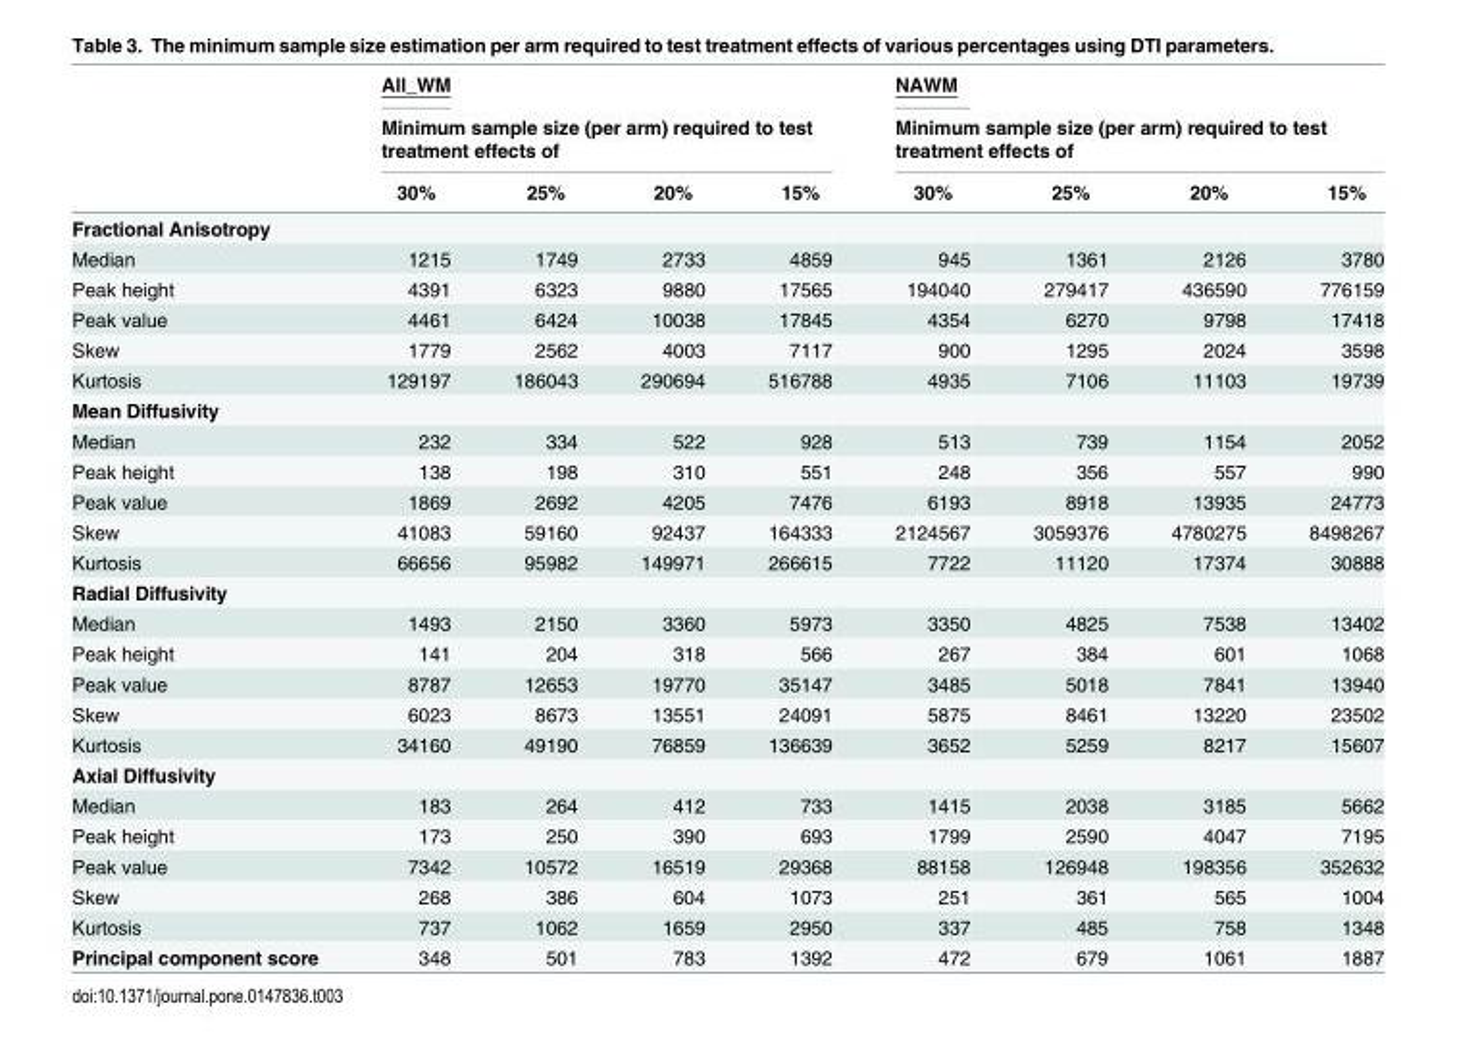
<table><thead><tr><td rowspan="3"></td><td>All_WM</td><td></td><td></td><td></td><td>NAWM</td><td></td><td></td><td></td></tr><tr><td colspan="4">Minimum sample size (per arm) required to test treatment effects of</td><td colspan="4">Minimum sample size (per arm) required to test treatment effects of</td></tr><tr><td>30%</td><td>25%</td><td>20%</td><td>15%</td><td>30%</td><td>25%</td><td>20%</td><td>15%</td></tr></thead><tbody><tr><td colspan="9">Fractional Anisotropy</td></tr><tr><td>Median</td><td>1215</td><td>1749</td><td>2733</td><td>4859</td><td>945</td><td>1361</td><td>2126</td><td>3780</td></tr><tr><td>Peak height</td><td>4391</td><td>6323</td><td>9880</td><td>17565</td><td>194040</td><td>279417</td><td>436590</td><td>776159</td></tr><tr><td>Peak value</td><td>4461</td><td>6424</td><td>10038</td><td>17845</td><td>4354</td><td>6270</td><td>9798</td><td>17418</td></tr><tr><td>Skew</td><td>1779</td><td>2562</td><td>4003</td><td>7117</td><td>900</td><td>1295</td><td>2024</td><td>3598</td></tr><tr><td>Kurtosis</td><td>129197</td><td>186043</td><td>290694</td><td>516788</td><td>4935</td><td>7106</td><td>11103</td><td>19739</td></tr><tr><td colspan="9">Mean Diffusivity</td></tr><tr><td>Median</td><td>232</td><td>334</td><td>522</td><td>928</td><td>513</td><td>739</td><td>1154</td><td>2052</td></tr><tr><td>Peak height</td><td>138</td><td>198</td><td>310</td><td>551</td><td>248</td><td>356</td><td>557</td><td>990</td></tr><tr><td>Peak value</td><td>1869</td><td>2692</td><td>4205</td><td>7476</td><td>6193</td><td>8918</td><td>13935</td><td>24773</td></tr><tr><td>Skew</td><td>41083</td><td>59160</td><td>92437</td><td>164333</td><td>2124567</td><td>3059376</td><td>4780275</td><td>8498267</td></tr><tr><td>Kurtosis</td><td>66656</td><td>95982</td><td>149971</td><td>266615</td><td>7722</td><td>11120</td><td>17374</td><td>30888</td></tr><tr><td colspan="9">Radial Diffusivity</td></tr><tr><td>Median</td><td>1493</td><td>2150</td><td>3360</td><td>5973</td><td>3350</td><td>4825</td><td>7538</td><td>13402</td></tr><tr><td>Peak height</td><td>141</td><td>204</td><td>318</td><td>566</td><td>267</td><td>384</td><td>601</td><td>1068</td></tr><tr><td>Peak value</td><td>8787</td><td>12653</td><td>19770</td><td>35147</td><td>3485</td><td>5018</td><td>7841</td><td>13940</td></tr><tr><td>Skew</td><td>6023</td><td>8673</td><td>13551</td><td>24091</td><td>5875</td><td>8461</td><td>13220</td><td>23502</td></tr><tr><td>Kurtosis</td><td>34160</td><td>49190</td><td>76859</td><td>136639</td><td>3652</td><td>5259</td><td>8217</td><td>15607</td></tr><tr><td colspan="9">Axial Diffusivity</td></tr><tr><td>Median</td><td>183</td><td>264</td><td>412</td><td>733</td><td>1415</td><td>2038</td><td>3185</td><td>5662</td></tr><tr><td>Peak height</td><td>173</td><td>250</td><td>390</td><td>693</td><td>1799</td><td>2590</td><td>4047</td><td>7195</td></tr><tr><td>Peak value</td><td>7342</td><td>10572</td><td>16519</td><td>29368</td><td>88158</td><td>126948</td><td>198356</td><td>352632</td></tr><tr><td>Skew</td><td>268</td><td>386</td><td>604</td><td>1073</td><td>251</td><td>361</td><td>565</td><td>1004</td></tr><tr><td>Kurtosis</td><td>737</td><td>1062</td><td>1659</td><td>2950</td><td>337</td><td>485</td><td>758</td><td>1348</td></tr><tr><td>Principal component score</td><td>348</td><td>501</td><td>783</td><td>1392</td><td>472</td><td>679</td><td>1061</td><td>1887</td></tr></tbody></table>